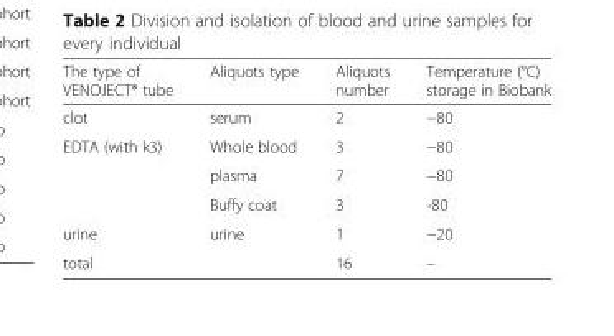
<table><thead><tr><td>The type of VENOJECT® tube</td><td>Aliquots type</td><td>Aliquots number</td><td>Temperature (°C) storage in Biobank</td></tr></thead><tbody><tr><td>clot</td><td>serum</td><td>2</td><td>−80</td></tr><tr><td rowspan="3">EDTA (with k3)</td><td>Whole blood</td><td>3</td><td>−80</td></tr><tr><td>plasma</td><td>7</td><td>−80</td></tr><tr><td>Buffy coat</td><td>3</td><td>-80</td></tr><tr><td>urine</td><td>urine</td><td>1</td><td>−20</td></tr><tr><td colspan="2">total</td><td>16</td><td>–</td></tr></tbody></table>